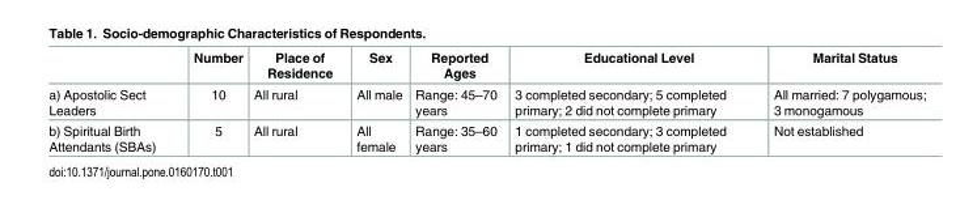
<table><thead><tr><td></td><td>Number</td><td>Place of Residence</td><td>Sex</td><td>Reported Ages</td><td>Educational Level</td><td>Marital Status</td></tr></thead><tbody><tr><td>a) Apostolic Sect Leaders</td><td>10</td><td>All rural</td><td>All male</td><td>Range: 45–70 years</td><td>3 completed secondary; 5 completed primary; 2 did not complete primary</td><td>All married: 7 polygamous; 3 monogamous</td></tr><tr><td>b) Spiritual Birth Attendants (SBAs)</td><td>5</td><td>All rural</td><td>All female</td><td>Range: 35–60 years</td><td>1 completed secondary; 3 completed primary; 1 did not complete primary</td><td>Not established</td></tr></tbody></table>